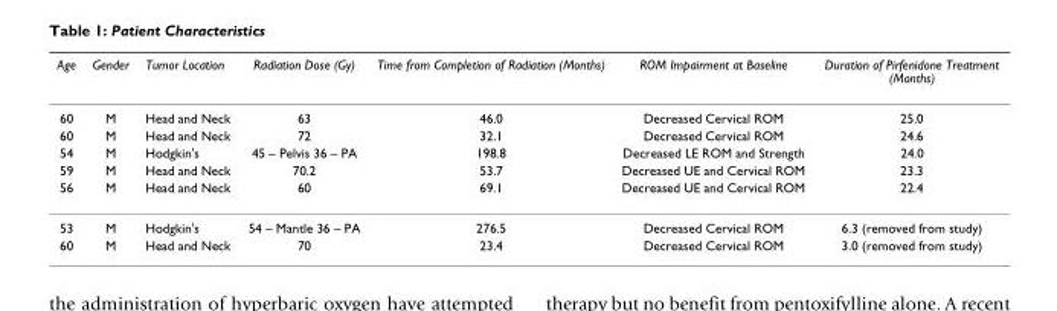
<table><thead><tr><td>Age</td><td>Gender</td><td>Tumor Location</td><td>Radiation Dose (Gy)</td><td>Time from Completion of Radiation (Months)</td><td>ROM Impairment at Baseline</td><td>Duration of Pirfenidone Treatment (Months)</td></tr></thead><tbody><tr><td>60</td><td>M</td><td>Head and Neck</td><td>63</td><td>46.0</td><td>Decreased Cervical ROM</td><td>25.0</td></tr><tr><td>60</td><td>M</td><td>Head and Neck</td><td>72</td><td>32.1</td><td>Decreased Cervical ROM</td><td>24.6</td></tr><tr><td>54</td><td>M</td><td>Hodgkin&#x27;s</td><td>45 – Pelvis 36 – PA</td><td>198.8</td><td>Decreased LE ROM and Strength</td><td>24.0</td></tr><tr><td>59</td><td>M</td><td>Head and Neck</td><td>70.2</td><td>53.7</td><td>Decreased UE and Cervical ROM</td><td>23.3</td></tr><tr><td>56</td><td>M</td><td>Head and Neck</td><td>60</td><td>69.1</td><td>Decreased UE and Cervical ROM</td><td>22.4</td></tr><tr><td>53</td><td>M</td><td>Hodgkin&#x27;s</td><td>54 – Mantle 36 – PA</td><td>276.5</td><td>Decreased Cervical ROM</td><td>6.3 (removed from study)</td></tr><tr><td>60</td><td>M</td><td>Head and Neck</td><td>70</td><td>23.4</td><td>Decreased Cervical ROM</td><td>3.0 (removed from study)</td></tr></tbody></table>